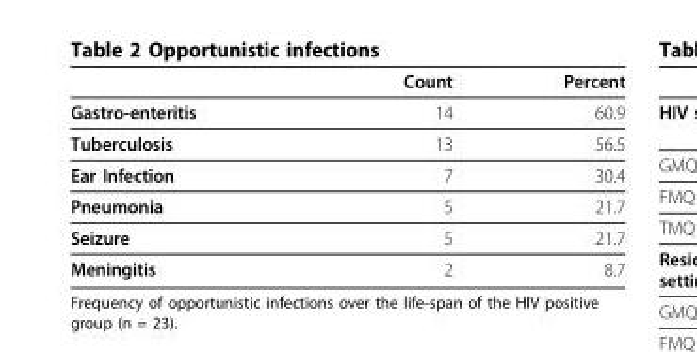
<table><thead><tr><td></td><td>Count</td><td>Percent</td></tr></thead><tbody><tr><td>Gastro-enteritis</td><td>14</td><td>60.9</td></tr><tr><td>Tuberculosis</td><td>13</td><td>56.5</td></tr><tr><td>Ear Infection</td><td>7</td><td>30.4</td></tr><tr><td>Pneumonia</td><td>5</td><td>21.7</td></tr><tr><td>Seizure</td><td>5</td><td>21.7</td></tr><tr><td>Meningitis</td><td>2</td><td>8.7</td></tr></tbody></table>